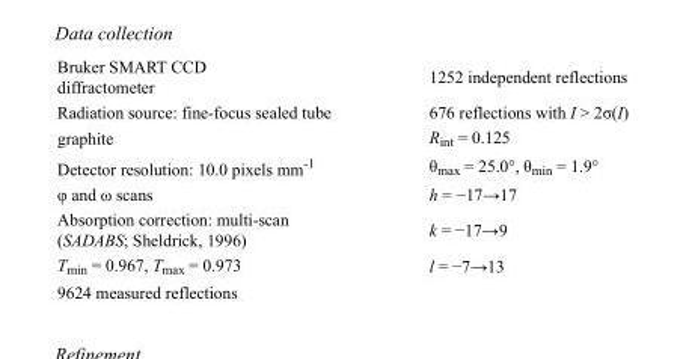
<table><tbody><tr><td>Bruker SMART CCD diffractometer</td><td>1252 independent reflections</td></tr><tr><td>Radiation source: fine-focus sealed tube</td><td>676 reflections with I &gt; 2σ(I)</td></tr><tr><td>graphite</td><td>R<sub>int</sub> = 0.125</td></tr><tr><td>Detector resolution: 10.0 pixels mm<sup>-1</sup></td><td>θ<sub>max</sub> = 25.0°, θ<sub>min</sub> = 1.9°</td></tr><tr><td>φ and ω scans</td><td>h = −17→17</td></tr><tr><td>Absorption correction: multi-scan (SADABS; Sheldrick, 1996)</td><td>k = −17→9</td></tr><tr><td>T<sub>min</sub> = 0.967, T<sub>max</sub> = 0.973</td><td>l = −7→13</td></tr><tr><td>9624 measured reflections</td><td></td></tr></tbody></table>